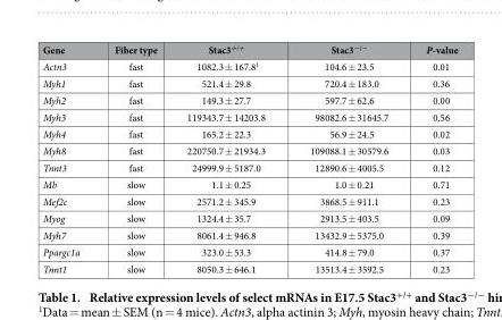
<table><thead><tr><td>Gene</td><td>Fiber type</td><td>Stac3<sup>+/+</sup></td><td>Stac3<sup>−/−</sup></td><td>P-value</td></tr></thead><tbody><tr><td>Actn3</td><td>fast</td><td>1082.3 ± 167.8<sup>1</sup></td><td>104.6 ± 23.5</td><td>0.01</td></tr><tr><td>Myh1</td><td>fast</td><td>521.4 ± 29.8</td><td>720.4 ± 183.0</td><td>0.36</td></tr><tr><td>Myh2</td><td>fast</td><td>149.3 ± 27.7</td><td>597.7 ± 62.6</td><td>0.00</td></tr><tr><td>Myh3</td><td>fast</td><td>119343.7 ± 14203.8</td><td>98082.6 ± 31645.7</td><td>0.56</td></tr><tr><td>Myh4</td><td>fast</td><td>165.2 ± 22.3</td><td>56.9 ± 24.5</td><td>0.02</td></tr><tr><td>Myh8</td><td>fast</td><td>220750.7 ± 21934.3</td><td>109088.1 ± 30579.6</td><td>0.03</td></tr><tr><td>Tnnt3</td><td>fast</td><td>24999.9 ± 5187.0</td><td>12890.6 ± 4005.5</td><td>0.12</td></tr><tr><td>Mb</td><td>slow</td><td>1.1 ± 0.25</td><td>1.0 ± 0.21</td><td>0.71</td></tr><tr><td>Mef2c</td><td>slow</td><td>2571.2 ± 345.9</td><td>3868.5 ± 911.1</td><td>0.23</td></tr><tr><td>Myog</td><td>slow</td><td>1324.4 ± 35.7</td><td>2913.5 ± 403.5</td><td>0.09</td></tr><tr><td>Myh7</td><td>slow</td><td>8061.4 ± 946.8</td><td>13432.9 ± 5375.0</td><td>0.39</td></tr><tr><td>Ppargc1a</td><td>slow</td><td>323.0 ± 53.3</td><td>414.8 ± 79.0</td><td>0.37</td></tr><tr><td>Tnnt1</td><td>slow</td><td>8050.3 ± 646.1</td><td>13513.4 ± 3592.5</td><td>0.23</td></tr></tbody></table>